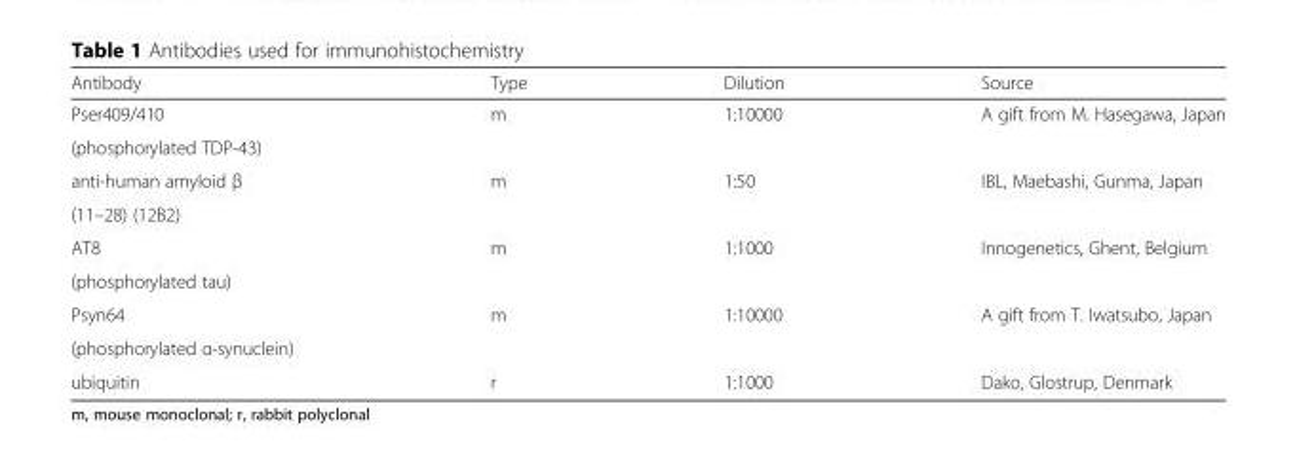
<table><thead><tr><td>Antibody</td><td>Type</td><td>Dilution</td><td>Source</td></tr></thead><tbody><tr><td>Pser409/410</td><td rowspan="2">m</td><td rowspan="2">1:10000</td><td rowspan="2">A gift from M. Hasegawa, Japan</td></tr><tr><td>(phosphorylated TDP-43)</td></tr><tr><td>anti-human amyloid β</td><td rowspan="2">m</td><td rowspan="2">1:50</td><td rowspan="2">IBL, Maebashi, Gunma, Japan</td></tr><tr><td>(11–28) (12B2)</td></tr><tr><td>AT8</td><td rowspan="2">m</td><td rowspan="2">1:1000</td><td rowspan="2">Innogenetics, Ghent, Belgium</td></tr><tr><td>(phosphorylated tau)</td></tr><tr><td>Psyn64</td><td rowspan="2">m</td><td rowspan="2">1:10000</td><td rowspan="2">A gift from T. Iwatsubo, Japan</td></tr><tr><td>(phosphorylated α-synuclein)</td></tr><tr><td>ubiquitin</td><td>r</td><td>1:1000</td><td>Dako, Glostrup, Denmark</td></tr></tbody></table>